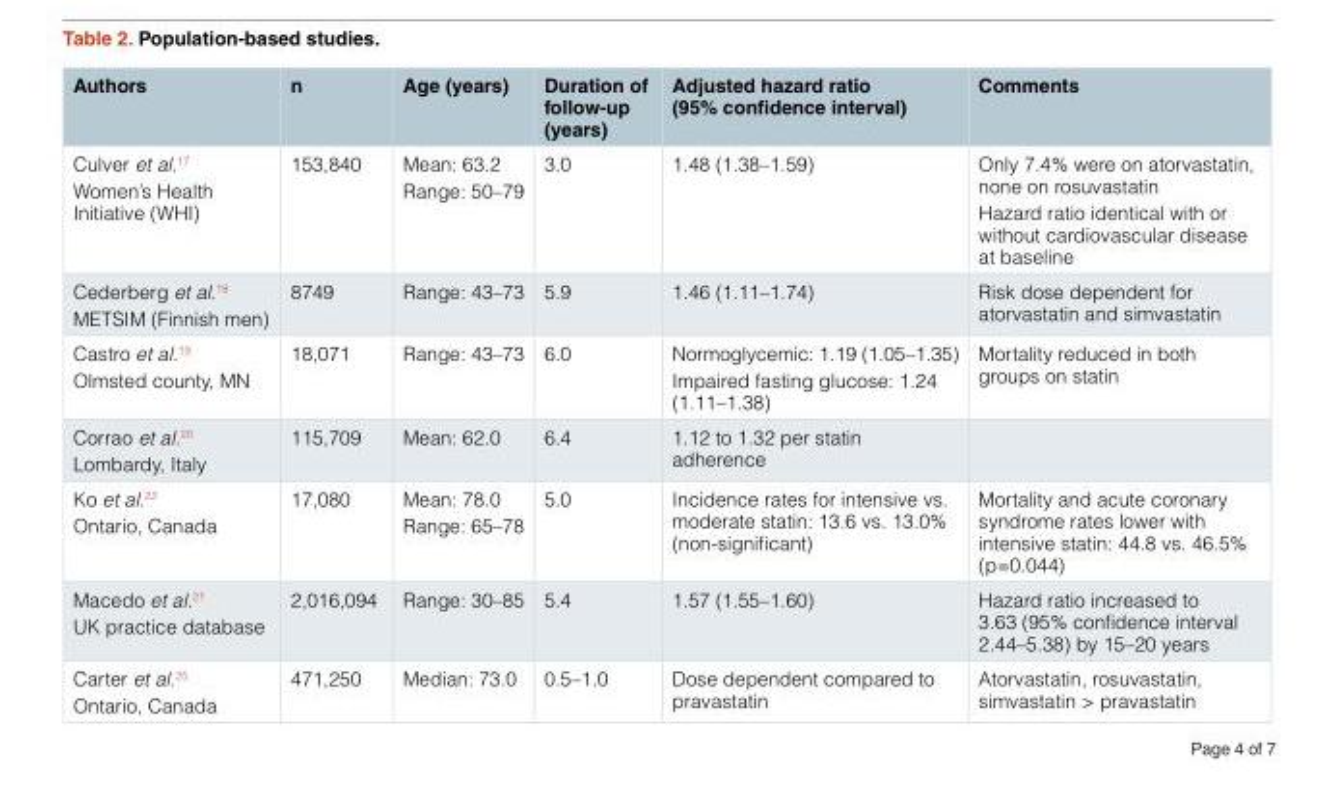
<table><thead><tr><td>Authors</td><td>n</td><td>Age (years)</td><td>Duration of follow-up (years)</td><td>Adjusted hazard ratio (95% confidence interval)</td><td>Comments</td></tr></thead><tbody><tr><td>Culver et al.<sup>17</sup> Women’s Health Initiative (WHI)</td><td>153,840</td><td>Mean: 63.2 Range: 50–79</td><td>3.0</td><td>1.48 (1.38–1.59)</td><td>Only 7.4% were on atorvastatin, none on rosuvastatin Hazard ratio identical with or without cardiovascular disease at baseline</td></tr><tr><td>Cederberg et al.<sup>18</sup> METSIM (Finnish men)</td><td>8749</td><td>Range: 43–73</td><td>5.9</td><td>1.46 (1.11–1.74)</td><td>Risk dose dependent for atorvastatin and simvastatin</td></tr><tr><td>Castro et al.<sup>19</sup> Olmsted county, MN</td><td>18,071</td><td>Range: 43–73</td><td>6.0</td><td>Normoglycemic: 1.19 (1.05–1.35) Impaired fasting glucose: 1.24 (1.11–1.38)</td><td>Mortality reduced in both groups on statin</td></tr><tr><td>Corrao et al.<sup>20</sup> Lombardy, Italy</td><td>115,709</td><td>Mean: 62.0</td><td>6.4</td><td>1.12 to 1.32 per statin adherence</td><td></td></tr><tr><td>Ko et al.<sup>22</sup> Ontario, Canada</td><td>17,080</td><td>Mean: 78.0 Range: 65–78</td><td>5.0</td><td>Incidence rates for intensive vs. moderate statin: 13.6 vs. 13.0% (non-significant)</td><td>Mortality and acute coronary syndrome rates lower with intensive statin: 44.8 vs. 46.5% (p=0.044)</td></tr><tr><td>Macedo et al.<sup>21</sup> UK practice database</td><td>2,016,094</td><td>Range: 30–85</td><td>5.4</td><td>1.57 (1.55–1.60)</td><td>Hazard ratio increased to 3.63 (95% confidence interval 2.44–5.38) by 15–20 years</td></tr><tr><td>Carter et al.<sup>25</sup> Ontario, Canada</td><td>471,250</td><td>Median: 73.0</td><td>0.5–1.0</td><td>Dose dependent compared to pravastatin</td><td>Atorvastatin, rosuvastatin, simvastatin &gt; pravastatin</td></tr></tbody></table>